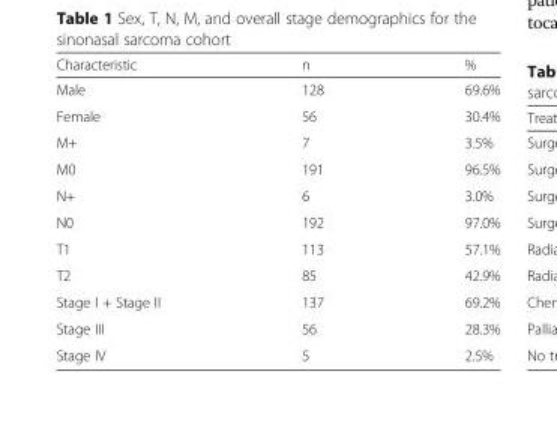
<table><thead><tr><td>Characteristic</td><td>n</td><td>%</td></tr></thead><tbody><tr><td>Male</td><td>128</td><td>69.6%</td></tr><tr><td>Female</td><td>56</td><td>30.4%</td></tr><tr><td>M+</td><td>7</td><td>3.5%</td></tr><tr><td>M0</td><td>191</td><td>96.5%</td></tr><tr><td>N+</td><td>6</td><td>3.0%</td></tr><tr><td>N0</td><td>192</td><td>97.0%</td></tr><tr><td>T1</td><td>113</td><td>57.1%</td></tr><tr><td>T2</td><td>85</td><td>42.9%</td></tr><tr><td>Stage I + Stage II</td><td>137</td><td>69.2%</td></tr><tr><td>Stage III</td><td>56</td><td>28.3%</td></tr><tr><td>Stage IV</td><td>5</td><td>2.5%</td></tr></tbody></table>